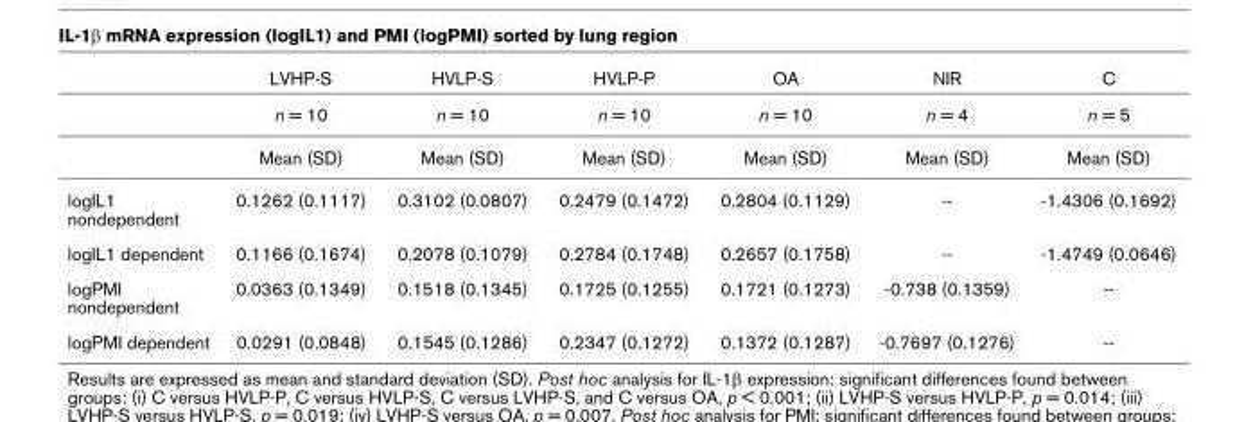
<table><thead><tr><td></td><td>LVHP-S</td><td>HVLP-S</td><td>HVLP-P</td><td>OA</td><td>NIR</td><td>C</td></tr></thead><tbody><tr><td></td><td>n = 10</td><td>n = 10</td><td>n = 10</td><td>n = 10</td><td>n = 4</td><td>n = 5</td></tr><tr><td></td><td>Mean (SD)</td><td>Mean (SD)</td><td>Mean (SD)</td><td>Mean (SD)</td><td>Mean (SD)</td><td>Mean (SD)</td></tr><tr><td>logIL1 nondependent</td><td>0.1262 (0.1117)</td><td>0.3102 (0.0807)</td><td>0.2479 (0.1472)</td><td>0.2804 (0.1129)</td><td>--</td><td>-1.4306 (0.1692)</td></tr><tr><td>logIL1 dependent</td><td>0.1166 (0.1674)</td><td>0.2078 (0.1079)</td><td>0.2784 (0.1748)</td><td>0.2657 (0.1758)</td><td>--</td><td>-1.4749 (0.0646)</td></tr><tr><td>logPMI nondependent</td><td>0.0363 (0.1349)</td><td>0.1518 (0.1345)</td><td>0.1725 (0.1255)</td><td>0.1721 (0.1273)</td><td>-0.738 (0.1359)</td><td>--</td></tr><tr><td>logPMI dependent</td><td>0.0291 (0.0848)</td><td>0.1545 (0.1286)</td><td>0.2347 (0.1272)</td><td>0.1372 (0.1287)</td><td>-0.7697 (0.1276)</td><td>--</td></tr></tbody></table>